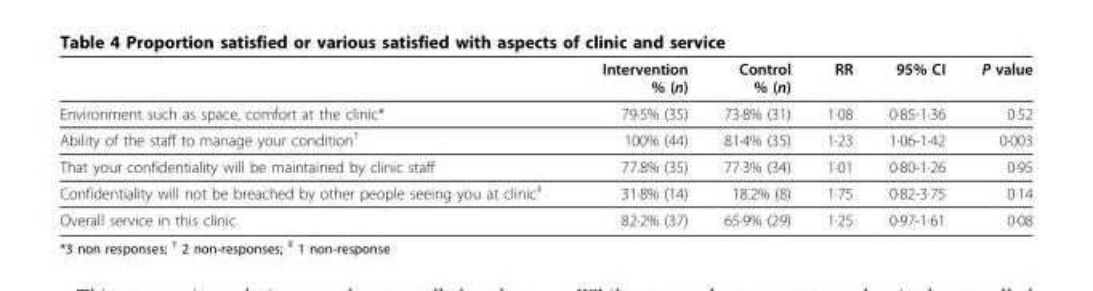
<table><thead><tr><td></td><td>Intervention % (n)</td><td>Control % (n)</td><td>RR</td><td>95% CI</td><td>P value</td></tr></thead><tbody><tr><td>Environment such as space, comfort at the clinic*</td><td>79·5% (35)</td><td>73·8% (31)</td><td>1·08</td><td>0·85-1·36</td><td>0·52</td></tr><tr><td>Ability of the staff to manage your condition<sup>†</sup></td><td>100% (44)</td><td>81·4% (35)</td><td>1·23</td><td>1·06-1·42</td><td>0·003</td></tr><tr><td>That your confidentiality will be maintained by clinic staff</td><td>77.8% (35)</td><td>77·3% (34)</td><td>1·01</td><td>0·80-1·26</td><td>0·95</td></tr><tr><td>Confidentiality will not be breached by other people seeing you at clinic<sup>‡</sup></td><td>31·8% (14)</td><td>18.2% (8)</td><td>1·75</td><td>0·82-3·75</td><td>0·14</td></tr><tr><td>Overall service in this clinic</td><td>82·2% (37)</td><td>65·9% (29)</td><td>1·25</td><td>0·97-1·61</td><td>0·08</td></tr></tbody></table>